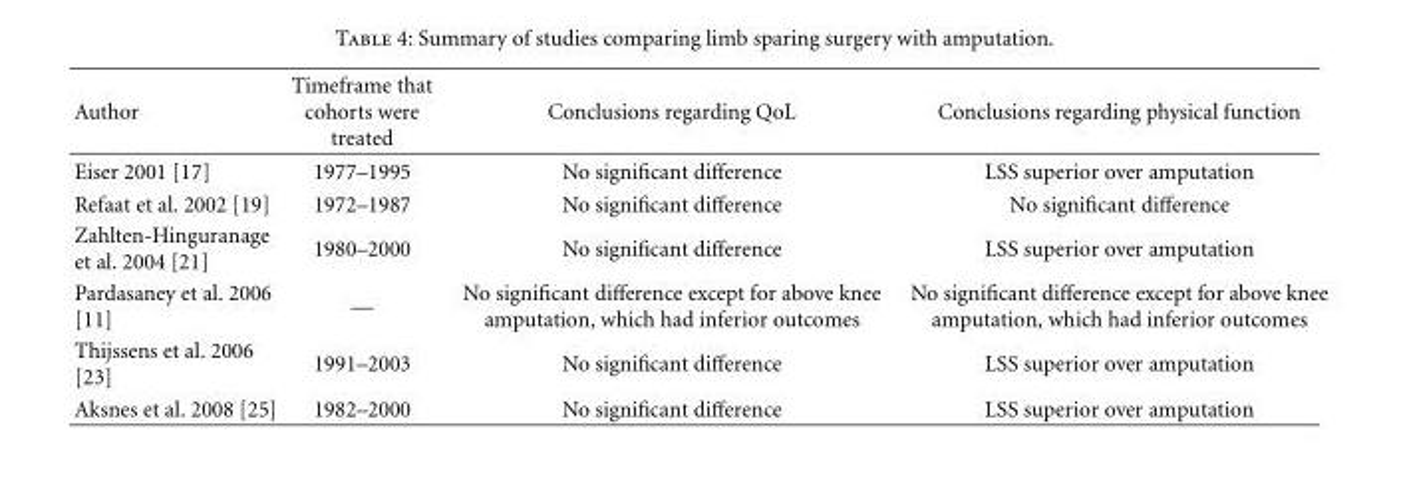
<table><thead><tr><td>Author</td><td>Timeframe that cohorts were treated</td><td>Conclusions regarding QoL</td><td>Conclusions regarding physical function</td></tr></thead><tbody><tr><td>Eiser 2001 [17]</td><td>1977–1995</td><td>No significant difference</td><td>LSS superior over amputation</td></tr><tr><td>Refaat et al. 2002 [19]</td><td>1972–1987</td><td>No significant difference</td><td>No significant difference</td></tr><tr><td>Zahlten-Hinguranage et al. 2004 [21]</td><td>1980–2000</td><td>No significant difference</td><td>LSS superior over amputation</td></tr><tr><td>Pardasaney et al. 2006 [11]</td><td>—</td><td>No significant difference except for above knee amputation, which had inferior outcomes</td><td>No significant difference except for above knee amputation, which had inferior outcomes</td></tr><tr><td>Thijssens et al. 2006 [23]</td><td>1991–2003</td><td>No significant difference</td><td>LSS superior over amputation</td></tr><tr><td>Aksnes et al. 2008 [25]</td><td>1982–2000</td><td>No significant difference</td><td>LSS superior over amputation</td></tr></tbody></table>